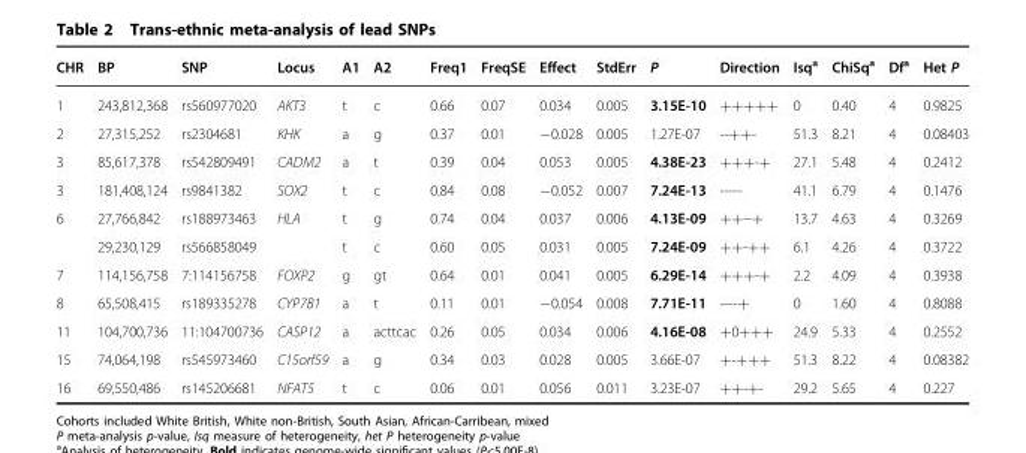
<table><thead><tr><td>CHR</td><td>BP</td><td>SNP</td><td>Locus</td><td>A1</td><td>A2</td><td>Freq1</td><td>FreqSE</td><td>Effect</td><td>StdErr</td><td>P</td><td>Direction</td><td>Isq<sup>a</sup></td><td>ChiSq<sup>a</sup></td><td>Df<sup>a</sup></td><td>Het P</td></tr></thead><tbody><tr><td>1</td><td>243,812,368</td><td>rs560977020</td><td>AKT3</td><td>t</td><td>c</td><td>0.66</td><td>0.07</td><td>0.034</td><td>0.005</td><td>3.15E-10</td><td>+++++</td><td>0</td><td>0.40</td><td>4</td><td>0.9825</td></tr><tr><td>2</td><td>27,315,252</td><td>rs2304681</td><td>KHK</td><td>a</td><td>g</td><td>0.37</td><td>0.01</td><td>−0.028</td><td>0.005</td><td>1.27E-07</td><td>--++-</td><td>51.3</td><td>8.21</td><td>4</td><td>0.08403</td></tr><tr><td>3</td><td>85,617,378</td><td>rs542809491</td><td>CADM2</td><td>a</td><td>t</td><td>0.39</td><td>0.04</td><td>0.053</td><td>0.005</td><td>4.38E-23</td><td>+++-+</td><td>27.1</td><td>5.48</td><td>4</td><td>0.2412</td></tr><tr><td>3</td><td>181,408,124</td><td>rs9841382</td><td>SOX2</td><td>t</td><td>c</td><td>0.84</td><td>0.08</td><td>−0.052</td><td>0.007</td><td>7.24E-13</td><td>-----</td><td>41.1</td><td>6.79</td><td>4</td><td>0.1476</td></tr><tr><td rowspan="2">6</td><td>27,766,842</td><td>rs188973463</td><td rowspan="2">HLA</td><td>t</td><td>g</td><td>0.74</td><td>0.04</td><td>0.037</td><td>0.006</td><td>4.13E-09</td><td>++--+</td><td>13.7</td><td>4.63</td><td>4</td><td>0.3269</td></tr><tr><td>29,230,129</td><td>rs566858049</td><td>t</td><td>c</td><td>0.60</td><td>0.05</td><td>0.031</td><td>0.005</td><td>7.24E-09</td><td>++-++</td><td>6.1</td><td>4.26</td><td>4</td><td>0.3722</td></tr><tr><td>7</td><td>114,156,758</td><td>7:114156758</td><td>FOXP2</td><td>g</td><td>gt</td><td>0.64</td><td>0.01</td><td>0.041</td><td>0.005</td><td>6.29E-14</td><td>+++-+</td><td>2.2</td><td>4.09</td><td>4</td><td>0.3938</td></tr><tr><td>8</td><td>65,508,415</td><td>rs189335278</td><td>CYP7B1</td><td>a</td><td>t</td><td>0.11</td><td>0.01</td><td>−0.054</td><td>0.008</td><td>7.71E-11</td><td>----+</td><td>0</td><td>1.60</td><td>4</td><td>0.8088</td></tr><tr><td>11</td><td>104,700,736</td><td>11:104700736</td><td>CASP12</td><td>a</td><td>acttcac</td><td>0.26</td><td>0.05</td><td>0.034</td><td>0.006</td><td>4.16E-08</td><td>+0+++</td><td>24.9</td><td>5.33</td><td>4</td><td>0.2552</td></tr><tr><td>15</td><td>74,064,198</td><td>rs545973460</td><td>C15orf59</td><td>a</td><td>g</td><td>0.34</td><td>0.03</td><td>0.028</td><td>0.005</td><td>3.66E-07</td><td>+-+++</td><td>51.3</td><td>8.22</td><td>4</td><td>0.08382</td></tr><tr><td>16</td><td>69,550,486</td><td>rs145206681</td><td>NFAT5</td><td>t</td><td>c</td><td>0.06</td><td>0.01</td><td>0.056</td><td>0.011</td><td>3.23E-07</td><td>++-+-</td><td>29.2</td><td>5.65</td><td>4</td><td>0.227</td></tr></tbody></table>